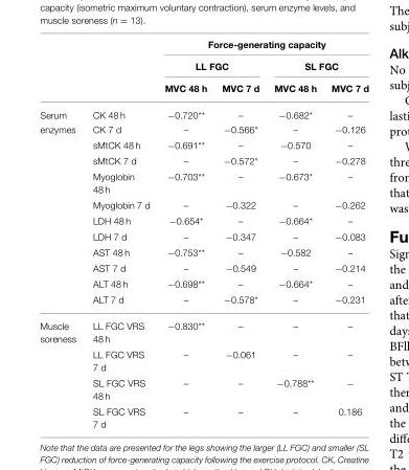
<table><thead><tr><td rowspan="3"></td><td rowspan="3"></td><td colspan="4">Force-generating capacity</td></tr><tr><td colspan="2">LL FGC</td><td colspan="2">SL FGC</td></tr><tr><td>MVC 48 h</td><td>MVC 7 d</td><td>MVC 48 h</td><td>MVC 7 d</td></tr></thead><tbody><tr><td>Serum</td><td>CK 48 h</td><td>−0.720**</td><td>–</td><td>−0.682*</td><td>–</td></tr><tr><td rowspan="11">enzymes</td><td>CK 7 d</td><td>–</td><td>−0.566*</td><td>–</td><td>−0.126</td></tr><tr><td>sMtCK 48 h</td><td>−0.691**</td><td>–</td><td>−0.570</td><td>–</td></tr><tr><td>sMtCK 7 d</td><td>–</td><td>−0.572*</td><td>–</td><td>−0.278</td></tr><tr><td>Myoglobin 48 h</td><td>−0.703**</td><td>–</td><td>−0.673*</td><td>–</td></tr><tr><td>Myoglobin 7 d</td><td>–</td><td>−0.322</td><td>–</td><td>−0.262</td></tr><tr><td>LDH 48 h</td><td>−0.654*</td><td>–</td><td>−0.664*</td><td>–</td></tr><tr><td>LDH 7 d</td><td>–</td><td>−0.347</td><td>–</td><td>−0.083</td></tr><tr><td>AST 48 h</td><td>−0.753**</td><td>–</td><td>−0.582</td><td>–</td></tr><tr><td>AST 7 d</td><td>–</td><td>−0.549</td><td>–</td><td>−0.214</td></tr><tr><td>ALT 48 h</td><td>−0.698**</td><td>–</td><td>−0.664*</td><td>–</td></tr><tr><td>ALT 7 d</td><td>–</td><td>−0.578*</td><td>–</td><td>−0.231</td></tr><tr><td rowspan="4">Muscle soreness</td><td>LL FGC VRS 48 h</td><td>−0.830**</td><td>–</td><td>–</td><td>–</td></tr><tr><td>LL FGC VRS 7 d</td><td>–</td><td>−0.061</td><td>–</td><td>–</td></tr><tr><td>SL FGC VRS 48 h</td><td>–</td><td>–</td><td>−0.788**</td><td>−</td></tr><tr><td>SL FGC VRS 7 d</td><td>–</td><td>–</td><td>–</td><td>0.186</td></tr></tbody></table>